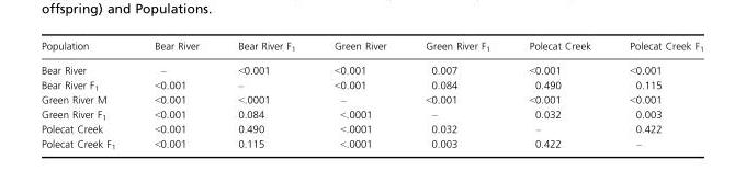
<table><thead><tr><td>Population</td><td>Bear River</td><td>Bear River F<sub>1</sub></td><td>Green River</td><td>Green River F<sub>1</sub></td><td>Polecat Creek</td><td>Polecat Creek F<sub>1</sub></td></tr></thead><tbody><tr><td>Bear River</td><td>–</td><td>&lt;0.001</td><td>&lt;0.001</td><td>0.007</td><td>&lt;0.001</td><td>&lt;0.001</td></tr><tr><td>Bear River F<sub>1</sub></td><td>&lt;0.001</td><td>–</td><td>&lt;0.001</td><td>0.084</td><td>0.490</td><td>0.115</td></tr><tr><td>Green River M</td><td>&lt;0.001</td><td>&lt;.0001</td><td>–</td><td>&lt;0.001</td><td>&lt;0.001</td><td>&lt;0.001</td></tr><tr><td>Green River F<sub>1</sub></td><td>&lt;0.001</td><td>0.084</td><td>&lt;.0001</td><td>–</td><td>0.032</td><td>0.003</td></tr><tr><td>Polecat Creek</td><td>&lt;0.001</td><td>0.490</td><td>&lt;.0001</td><td>0.032</td><td>–</td><td>0.422</td></tr><tr><td>Polecat Creek F<sub>1</sub></td><td>&lt;0.001</td><td>0.115</td><td>&lt;.0001</td><td>0.003</td><td>0.422</td><td>–</td></tr></tbody></table>